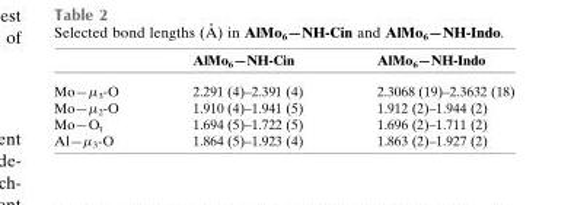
<table><thead><tr><td></td><td>AlMo<sub>6</sub>—NH-Cin</td><td>AlMo<sub>6</sub>—NH-Indo</td></tr></thead><tbody><tr><td>Mo—μ<sub>3</sub>-O</td><td>2.291 (4)–2.391 (4)</td><td>2.3068 (19)–2.3632 (18)</td></tr><tr><td>Mo—μ<sub>2</sub>-O</td><td>1.910 (4)–1.941 (5)</td><td>1.912 (2)–1.944 (2)</td></tr><tr><td>Mo—O<sub>t</sub></td><td>1.694 (5)–1.722 (5)</td><td>1.696 (2)–1.711 (2)</td></tr><tr><td>Al—μ<sub>3</sub>-O</td><td>1.864 (5)–1.923 (4)</td><td>1.863 (2)–1.927 (2)</td></tr></tbody></table>